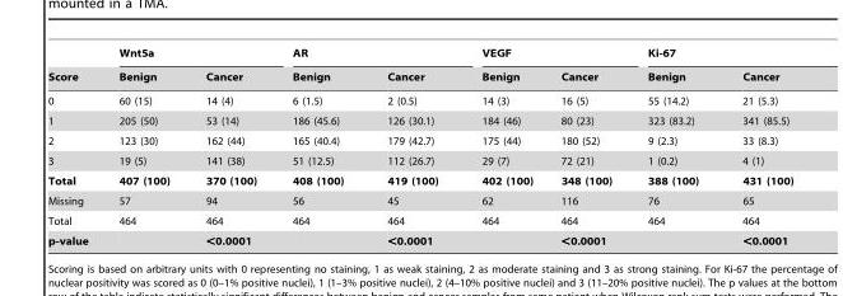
<table><thead><tr><td rowspan="2">Score</td><td colspan="2">Wnt5a</td><td colspan="2">AR</td><td colspan="2">VEGF</td><td colspan="2">Ki-67</td></tr><tr><td>Benign</td><td>Cancer</td><td>Benign</td><td>Cancer</td><td>Benign</td><td>Cancer</td><td>Benign</td><td>Cancer</td></tr></thead><tbody><tr><td>0</td><td>60 (15)</td><td>14 (4)</td><td>6 (1.5)</td><td>2 (0.5)</td><td>14 (3)</td><td>16 (5)</td><td>55 (14.2)</td><td>21 (5.3)</td></tr><tr><td>1</td><td>205 (50)</td><td>53 (14)</td><td>186 (45.6)</td><td>126 (30.1)</td><td>184 (46)</td><td>80 (23)</td><td>323 (83.2)</td><td>341 (85.5)</td></tr><tr><td>2</td><td>123 (30)</td><td>162 (44)</td><td>165 (40.4)</td><td>179 (42.7)</td><td>175 (44)</td><td>180 (52)</td><td>9 (2.3)</td><td>33 (8.3)</td></tr><tr><td>3</td><td>19 (5)</td><td>141 (38)</td><td>51 (12.5)</td><td>112 (26.7)</td><td>29 (7)</td><td>72 (21)</td><td>1 (0.2)</td><td>4 (1)</td></tr><tr><td>Total</td><td>407 (100)</td><td>370 (100)</td><td>408 (100)</td><td>419 (100)</td><td>402 (100)</td><td>348 (100)</td><td>388 (100)</td><td>431 (100)</td></tr><tr><td>Missing</td><td>57</td><td>94</td><td>56</td><td>45</td><td>62</td><td>116</td><td>76</td><td>65</td></tr><tr><td>Total</td><td>464</td><td>464</td><td>464</td><td>464</td><td>464</td><td>464</td><td>464</td><td>464</td></tr><tr><td>p-value</td><td></td><td>&lt;0.0001</td><td></td><td>&lt;0.0001</td><td></td><td>&lt;0.0001</td><td></td><td>&lt;0.0001</td></tr></tbody></table>